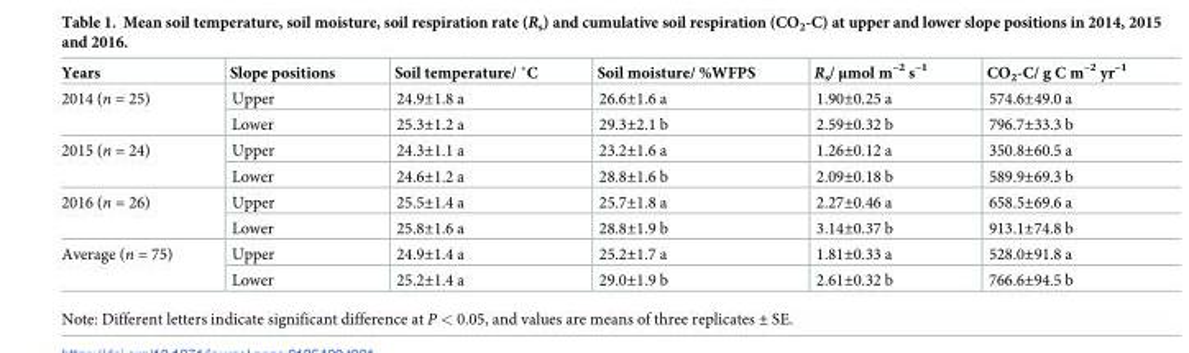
<table><thead><tr><td>Years</td><td>Slope positions</td><td>Soil temperature/ ˚C</td><td>Soil moisture/ %WFPS</td><td>R<sub>s</sub>/ μmol m<sup>–2</sup> s<sup>–1</sup></td><td>CO<sub>2</sub>-C/ g C m<sup>–2</sup> yr<sup>–1</sup></td></tr></thead><tbody><tr><td rowspan="2">2014 (n = 25)</td><td>Upper</td><td>24.9±1.8 a</td><td>26.6±1.6 a</td><td>1.90±0.25 a</td><td>574.6±49.0 a</td></tr><tr><td>Lower</td><td>25.3±1.2 a</td><td>29.3±2.1 b</td><td>2.59±0.32 b</td><td>796.7±33.3 b</td></tr><tr><td rowspan="2">2015 (n = 24)</td><td>Upper</td><td>24.3±1.1 a</td><td>23.2±1.6 a</td><td>1.26±0.12 a</td><td>350.8±60.5 a</td></tr><tr><td>Lower</td><td>24.6±1.2 a</td><td>28.8±1.6 b</td><td>2.09±0.18 b</td><td>589.9±69.3 b</td></tr><tr><td rowspan="2">2016 (n = 26)</td><td>Upper</td><td>25.5±1.4 a</td><td>25.7±1.8 a</td><td>2.27±0.46 a</td><td>658.5±69.6 a</td></tr><tr><td>Lower</td><td>25.8±1.6 a</td><td>28.8±1.9 b</td><td>3.14±0.37 b</td><td>913.1±74.8 b</td></tr><tr><td rowspan="2">Average (n = 75)</td><td>Upper</td><td>24.9±1.4 a</td><td>25.2±1.7 a</td><td>1.81±0.33 a</td><td>528.0±91.8 a</td></tr><tr><td>Lower</td><td>25.2±1.4 a</td><td>29.0±1.9 b</td><td>2.61±0.32 b</td><td>766.6±94.5 b</td></tr></tbody></table>